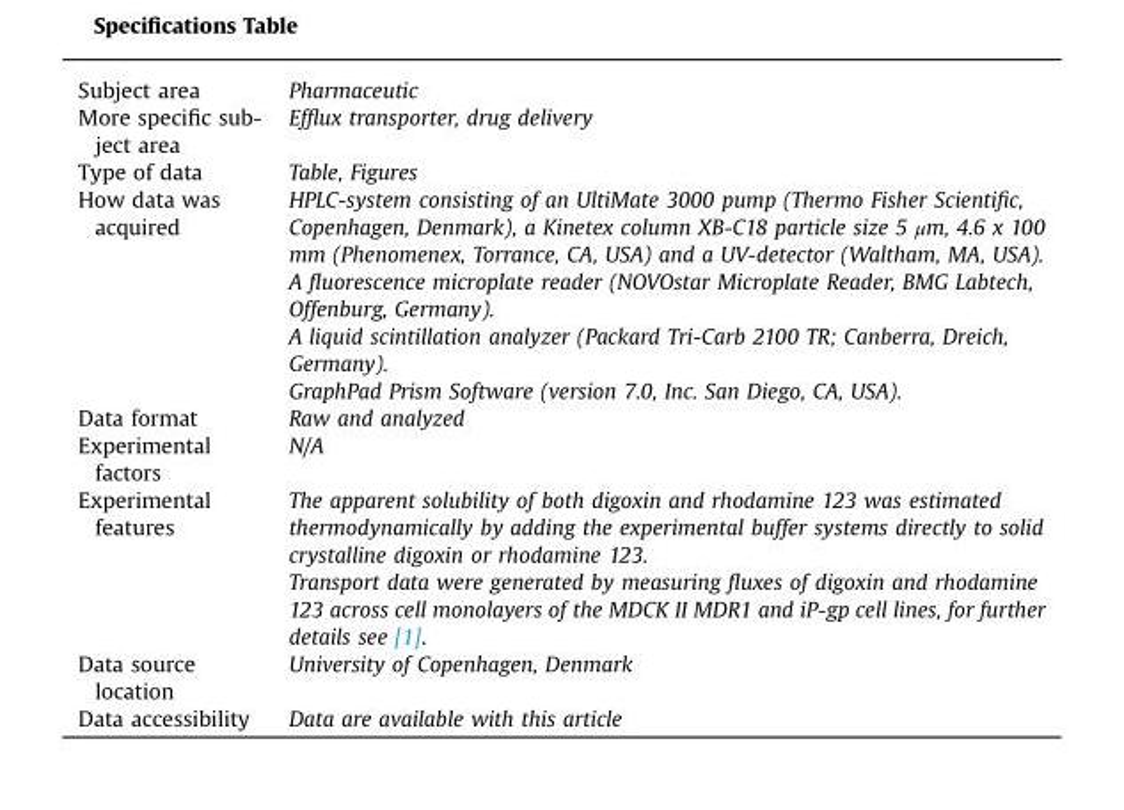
<table><tbody><tr><td>Subject area</td><td>Pharmaceutic</td></tr><tr><td>More specific sub- ject area</td><td>Efflux transporter, drug delivery</td></tr><tr><td>Type of data</td><td>Table, Figures</td></tr><tr><td rowspan="4">How data was acquired</td><td>HPLC-system consisting of an UltiMate 3000 pump (Thermo Fisher Scientific, Copenhagen, Denmark), a Kinetex column XB-C18 particle size 5 μm, 4.6 x 100 mm (Phenomenex, Torrance, CA, USA) and a UV-detector (Waltham, MA, USA).</td></tr><tr><td>A fluorescence microplate reader (NOVOstar Microplate Reader, BMG Labtech, Offenburg, Germany).</td></tr><tr><td>A liquid scintillation analyzer (Packard Tri-Carb 2100 TR; Canberra, Dreich, Germany).</td></tr><tr><td>GraphPad Prism Software (version 7.0, Inc. San Diego, CA, USA).</td></tr><tr><td>Data format</td><td>Raw and analyzed</td></tr><tr><td>Experimental factors</td><td>N/A</td></tr><tr><td rowspan="2">Experimental features</td><td>The apparent solubility of both digoxin and rhodamine 123 was estimated thermodynamically by adding the experimental buffer systems directly to solid crystalline digoxin or rhodamine 123.</td></tr><tr><td>Transport data were generated by measuring fluxes of digoxin and rhodamine 123 across cell monolayers of the MDCK II MDR1 and iP-gp cell lines, for further details see [1].</td></tr><tr><td>Data source location</td><td>University of Copenhagen, Denmark</td></tr><tr><td>Data accessibility</td><td>Data are available with this article</td></tr></tbody></table>